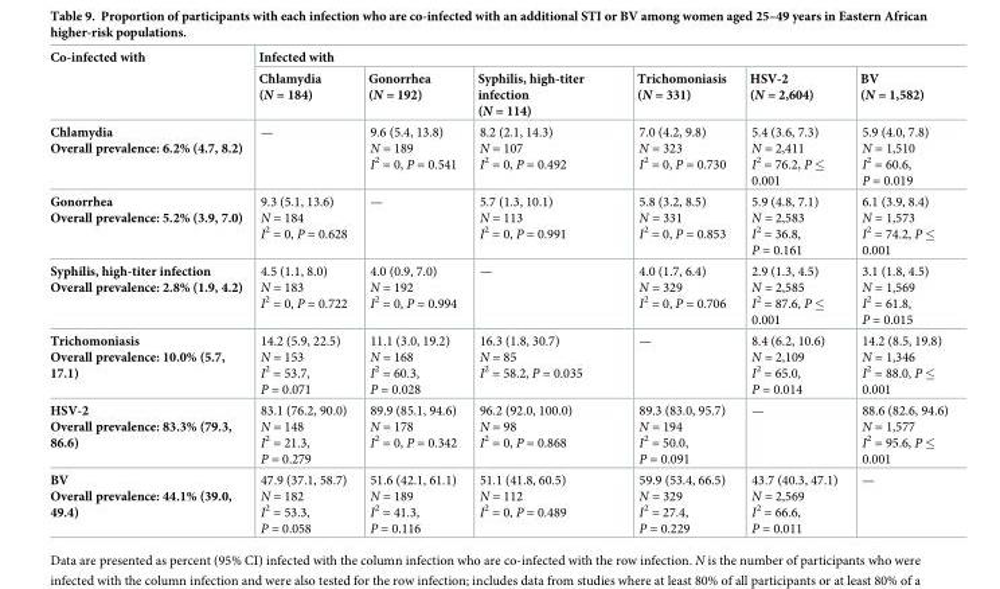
<table><thead><tr><td rowspan="2">Co-infected with</td><td colspan="6">Infected with</td></tr><tr><td>Chlamydia (N = 184)</td><td>Gonorrhea (N = 192)</td><td>Syphilis, high-titer infection (N = 114)</td><td>Trichomoniasis (N = 331)</td><td>HSV-2 (N = 2,604)</td><td>BV (N = 1,582)</td></tr></thead><tbody><tr><td>Chlamydia Overall prevalence: 6.2% (4.7, 8.2)</td><td>—</td><td>9.6 (5.4, 13.8) N = 189 I<sup>2</sup> = 0, P = 0.541</td><td>8.2 (2.1, 14.3) N = 107 I<sup>2</sup> = 0, P = 0.492</td><td>7.0 (4.2, 9.8) N = 323 I<sup>2</sup> = 0, P = 0.730</td><td>5.4 (3.6, 7.3) N = 2,411 I<sup>2</sup> = 76.2, P ≤ 0.001</td><td>5.9 (4.0, 7.8) N = 1,510 I<sup>2</sup> = 60.6, P = 0.019</td></tr><tr><td>Gonorrhea Overall prevalence: 5.2% (3.9, 7.0)</td><td>9.3 (5.1, 13.6) N = 184 I<sup>2</sup> = 0, P = 0.628</td><td>—</td><td>5.7 (1.3, 10.1) N = 113 I<sup>2</sup> = 0, P = 0.991</td><td>5.8 (3.2, 8.5) N = 331 I<sup>2</sup> = 0, P = 0.853</td><td>5.9 (4.8, 7.1) N = 2,583 I<sup>2</sup> = 36.8, P = 0.161</td><td>6.1 (3.9, 8.4) N = 1,573 I<sup>2</sup> = 74.2, P ≤ 0.001</td></tr><tr><td>Syphilis, high-titer infection Overall prevalence: 2.8% (1.9, 4.2)</td><td>4.5 (1.1, 8.0) N = 183 I<sup>2</sup> = 0, P = 0.722</td><td>4.0 (0.9, 7.0) N = 192 I<sup>2</sup> = 0, P = 0.994</td><td>—</td><td>4.0 (1.7, 6.4) N = 329 I<sup>2</sup> = 0, P = 0.706</td><td>2.9 (1.3, 4.5) N = 2,585 I<sup>2</sup> = 87.6, P ≤ 0.001</td><td>3.1 (1.8, 4.5) N = 1,569 I<sup>2</sup> = 61.8, P = 0.015</td></tr><tr><td>Trichomoniasis Overall prevalence: 10.0% (5.7, 17.1)</td><td>14.2 (5.9, 22.5) N = 153 I<sup>2</sup> = 53.7, P = 0.071</td><td>11.1 (3.0, 19.2) N = 168 I<sup>2</sup> = 60.3, P = 0.028</td><td>16.3 (1.8, 30.7) N = 85 I<sup>2</sup> = 58.2, P = 0.035</td><td>—</td><td>8.4 (6.2, 10.6) N = 2,109 I<sup>2</sup> = 65.0, P = 0.014</td><td>14.2 (8.5, 19.8) N = 1,346 I<sup>2</sup> = 88.0, P ≤ 0.001</td></tr><tr><td>HSV-2 Overall prevalence: 83.3% (79.3, 86.6)</td><td>83.1 (76.2, 90.0) N = 148 I<sup>2</sup> = 21.3, P = 0.279</td><td>89.9 (85.1, 94.6) N = 178 I<sup>2</sup> = 0, P = 0.342</td><td>96.2 (92.0, 100.0) N = 98 I<sup>2</sup> = 0, P = 0.868</td><td>89.3 (83.0, 95.7) N = 194 I<sup>2</sup> = 50.0, P = 0.091</td><td>—</td><td>88.6 (82.6, 94.6) N = 1,577 I<sup>2</sup> = 95.6, P ≤ 0.001</td></tr><tr><td>BV Overall prevalence: 44.1% (39.0, 49.4)</td><td>47.9 (37.1, 58.7) N = 182 I<sup>2</sup> = 53.3, P = 0.058</td><td>51.6 (42.1, 61.1) N = 189 I<sup>2</sup> = 41.3, P = 0.116</td><td>51.1 (41.8, 60.5) N = 112 I<sup>2</sup> = 0, P = 0.489</td><td>59.9 (53.4, 66.5) N = 329 I<sup>2</sup> = 27.4, P = 0.229</td><td>43.7 (40.3, 47.1) N = 2,569 I<sup>2</sup> = 66.6, P = 0.011</td><td>—</td></tr></tbody></table>